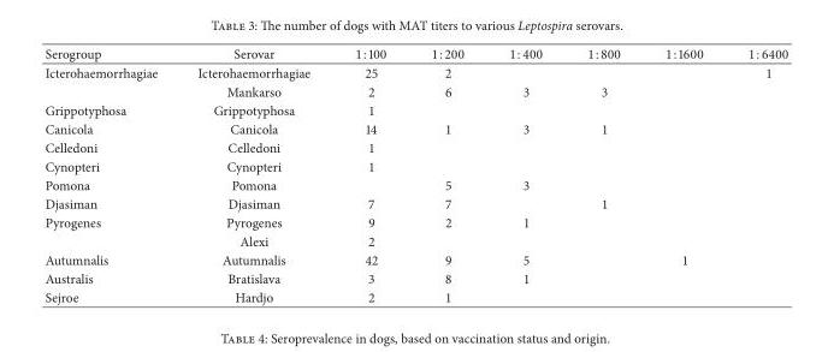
<table><thead><tr><td>Serogroup</td><td>Serovar</td><td>1 : 100</td><td>1 : 200</td><td>1 : 400</td><td>1 : 800</td><td>1 : 1600</td><td>1 : 6400</td></tr></thead><tbody><tr><td rowspan="2">Icterohaemorrhagiae</td><td>Icterohaemorrhagiae</td><td>25</td><td>2</td><td></td><td></td><td></td><td>1</td></tr><tr><td>Mankarso</td><td>2</td><td>6</td><td>3</td><td>3</td><td></td><td></td></tr><tr><td>Grippotyphosa</td><td>Grippotyphosa</td><td>1</td><td></td><td></td><td></td><td></td><td></td></tr><tr><td>Canicola</td><td>Canicola</td><td>14</td><td>1</td><td>3</td><td>1</td><td></td><td></td></tr><tr><td>Celledoni</td><td>Celledoni</td><td>1</td><td></td><td></td><td></td><td></td><td></td></tr><tr><td>Cynopteri</td><td>Cynopteri</td><td>1</td><td></td><td></td><td></td><td></td><td></td></tr><tr><td>Pomona</td><td>Pomona</td><td></td><td>5</td><td>3</td><td></td><td></td><td></td></tr><tr><td>Djasiman</td><td>Djasiman</td><td>7</td><td>7</td><td></td><td>1</td><td></td><td></td></tr><tr><td rowspan="2">Pyrogenes</td><td>Pyrogenes</td><td>9</td><td>2</td><td>1</td><td></td><td></td><td></td></tr><tr><td>Alexi</td><td>2</td><td></td><td></td><td></td><td></td><td></td></tr><tr><td>Autumnalis</td><td>Autumnalis</td><td>42</td><td>9</td><td>5</td><td></td><td>1</td><td></td></tr><tr><td>Australis</td><td>Bratislava</td><td>3</td><td>8</td><td>1</td><td></td><td></td><td></td></tr><tr><td>Sejroe</td><td>Hardjo</td><td>2</td><td>1</td><td></td><td></td><td></td><td></td></tr></tbody></table>